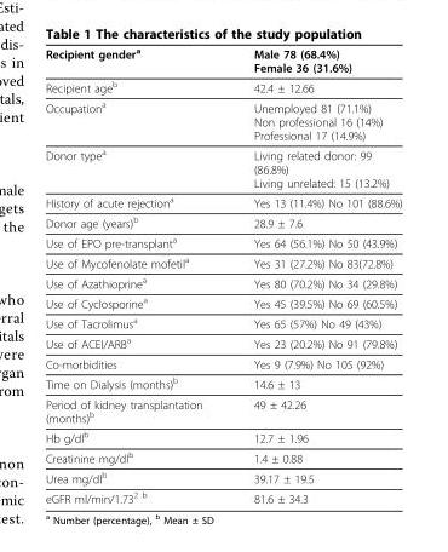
<table><thead><tr><td>Recipient gender<sup>a</sup></td><td>Male 78 (68.4%) Female 36 (31.6%)</td></tr></thead><tbody><tr><td>Recipient age<sup>b</sup></td><td>42.4 ± 12.66</td></tr><tr><td>Occupation<sup>a</sup></td><td>Unemployed 81 (71.1%) Non professional 16 (14%) Professional 17 (14.9%)</td></tr><tr><td>Donor type<sup>a</sup></td><td>Living related donor: 99 (86.8%) Living unrelated: 15 (13.2%)</td></tr><tr><td>History of acute rejection<sup>a</sup></td><td>Yes 13 (11.4%) No 101 (88.6%)</td></tr><tr><td>Donor age (years)<sup>b</sup></td><td>28.9 ± 7.6</td></tr><tr><td>Use of EPO pre-transplant<sup>a</sup></td><td>Yes 64 (56.1%) No 50 (43.9%)</td></tr><tr><td>Use of Mycofenolate mofetil<sup>a</sup></td><td>Yes 31 (27.2%) No 83(72.8%)</td></tr><tr><td>Use of Azathioprine<sup>a</sup></td><td>Yes 80 (70.2%) No 34 (29.8%)</td></tr><tr><td>Use of Cyclosporine<sup>a</sup></td><td>Yes 45 (39.5%) No 69 (60.5%)</td></tr><tr><td>Use of Tacrolimus<sup>a</sup></td><td>Yes 65 (57%) No 49 (43%)</td></tr><tr><td>Use of ACEI/ARB<sup>a</sup></td><td>Yes 23 (20.2%) No 91 (79.8%)</td></tr><tr><td>Co-morbidities</td><td>Yes 9 (7.9%) No 105 (92%)</td></tr><tr><td>Time on Dialysis (months)<sup>b</sup></td><td>14.6 ± 13</td></tr><tr><td>Period of kidney transplantation (months)<sup>b</sup></td><td>49 ± 42.26</td></tr><tr><td>Hb g/dl<sup>b</sup></td><td>12.7 ± 1.96</td></tr><tr><td>Creatinine mg/dl<sup>b</sup></td><td>1.4 ± 0.88</td></tr><tr><td>Urea mg/dl<sup>b</sup></td><td>39.17 ± 19.5</td></tr><tr><td>eGFR ml/min/1.73<sup>2 b</sup></td><td>81.6 ± 34.3</td></tr></tbody></table>